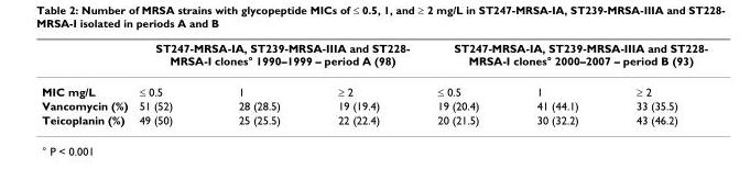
<table><thead><tr><td rowspan="2">MIC mg/L</td><td colspan="3">ST247-MRSA-IA, ST239-MRSA-IIIA and ST228- MRSA-I clones° 1990–1999 – period A (98)</td><td colspan="3">ST247-MRSA-IA, ST239-MRSA-IIIA and ST228- MRSA-I clones° 2000–2007 – period B (93)</td></tr><tr><td>≤ 0.5</td><td>1</td><td>≥ 2</td><td>≤ 0.5</td><td>1</td><td>≥ 2</td></tr></thead><tbody><tr><td>Vancomycin (%)</td><td>51 (52)</td><td>28 (28.5)</td><td>19 (19.4)</td><td>19 (20.4)</td><td>41 (44.1)</td><td>33 (35.5)</td></tr><tr><td>Teicoplanin (%)</td><td>49 (50)</td><td>25 (25.5)</td><td>22 (22.4)</td><td>20 (21.5)</td><td>30 (32.2)</td><td>43 (46.2)</td></tr></tbody></table>